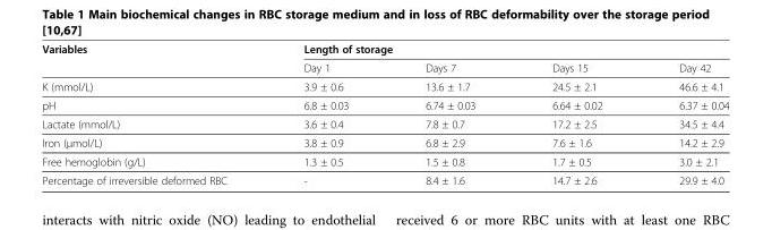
<table><thead><tr><td rowspan="2">Variables</td><td colspan="4">Length of storage</td></tr><tr><td>Day 1</td><td>Days 7</td><td>Days 15</td><td>Day 42</td></tr></thead><tbody><tr><td>K (mmol/L)</td><td>3.9 ± 0.6</td><td>13.6 ± 1.7</td><td>24.5 ± 2.1</td><td>46.6 ± 4.1</td></tr><tr><td>pH</td><td>6.8 ± 0.03</td><td>6.74 ± 0.03</td><td>6.64 ± 0.02</td><td>6.37 ± 0.04</td></tr><tr><td>Lactate (mmol/L)</td><td>3.6 ± 0.4</td><td>7.8 ± 0.7</td><td>17.2 ± 2.5</td><td>34.5 ± 4.4</td></tr><tr><td>Iron (μmol/L)</td><td>3.8 ± 0.9</td><td>6.8 ± 2.9</td><td>7.6 ± 1.6</td><td>14.2 ± 2.9</td></tr><tr><td>Free hemoglobin (g/L)</td><td>1.3 ± 0.5</td><td>1.5 ± 0.8</td><td>1.7 ± 0.5</td><td>3.0 ± 2.1</td></tr><tr><td>Percentage of irreversible deformed RBC</td><td>-</td><td>8.4 ± 1.6</td><td>14.7 ± 2.6</td><td>29.9 ± 4.0</td></tr></tbody></table>